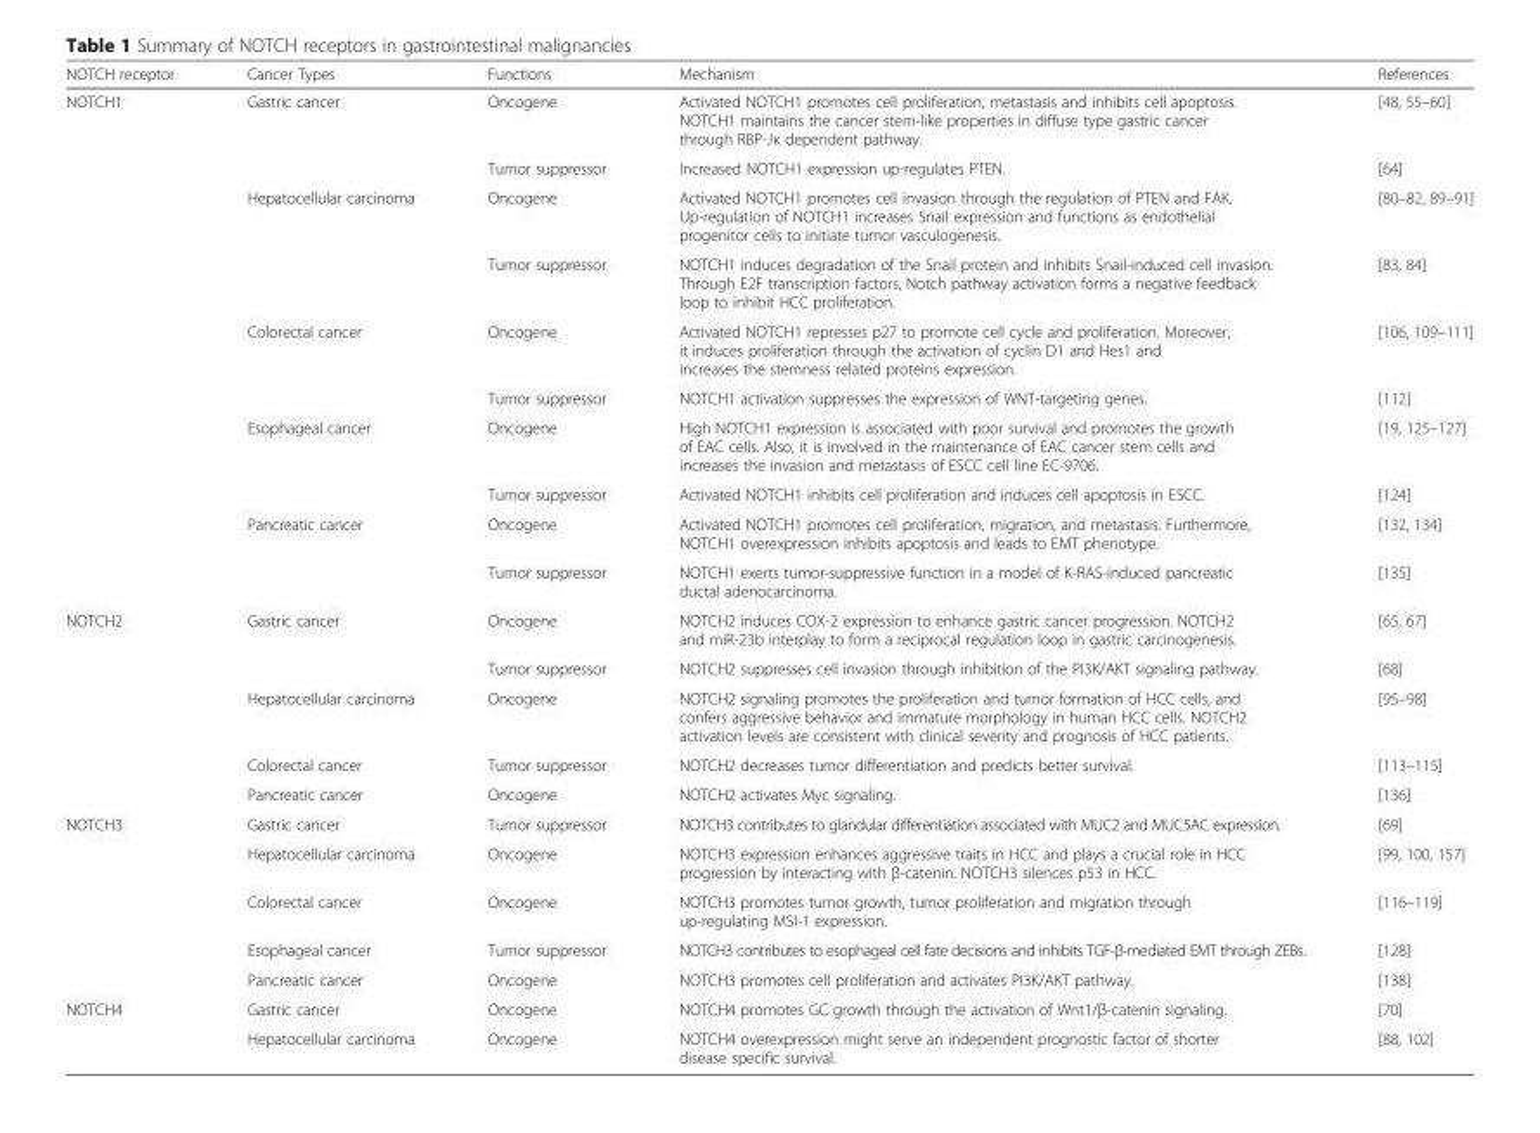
<table><thead><tr><td>NOTCH receptor</td><td>Cancer Types</td><td>Functions</td><td>Mechanism</td><td>References</td></tr></thead><tbody><tr><td rowspan="10">NOTCH1</td><td rowspan="2">Gastric cancer</td><td>Oncogene</td><td>Activated NOTCH1 promotes cell proliferation, metastasis and inhibits cell apoptosis. NOTCH1 maintains the cancer stem-like properties in diffuse type gastric cancer through RBP-Jκ dependent pathway.</td><td>[48, 55–60]</td></tr><tr><td>Tumor suppressor</td><td>Increased NOTCH1 expression up-regulates PTEN.</td><td>[64]</td></tr><tr><td rowspan="2">Hepatocellular carcinoma</td><td>Oncogene</td><td>Activated NOTCH1 promotes cell invasion through the regulation of PTEN and FAK. Up-regulation of NOTCH1 increases Snail expression and functions as endothelial progenitor cells to initiate tumor vasculogenesis.</td><td>[80–82, 89–91]</td></tr><tr><td>Tumor suppressor</td><td>NOTCH1 induces degradation of the Snail protein and inhibits Snail-induced cell invasion. Through E2F transcription factors, Notch pathway activation forms a negative feedback loop to inhibit HCC proliferation.</td><td>[83, 84]</td></tr><tr><td rowspan="2">Colorectal cancer</td><td>Oncogene</td><td>Activated NOTCH1 represses p27 to promote cell cycle and proliferation. Moreover, it induces proliferation through the activation of cyclin D1 and Hes1 and increases the stemness related proteins expression.</td><td>[106, 109–111]</td></tr><tr><td>Tumor suppressor</td><td>NOTCH1 activation suppresses the expression of WNT-targeting genes.</td><td>[112]</td></tr><tr><td rowspan="2">Esophageal cancer</td><td>Oncogene</td><td>High NOTCH1 expression is associated with poor survival and promotes the growth of EAC cells. Also, it is involved in the maintenance of EAC cancer stem cells and increases the invasion and metastasis of ESCC cell line EC-9706.</td><td>[19, 125–127]</td></tr><tr><td>Tumor suppressor</td><td>Activated NOTCH1 inhibits cell proliferation and induces cell apoptosis in ESCC.</td><td>[124]</td></tr><tr><td rowspan="2">Pancreatic cancer</td><td>Oncogene</td><td>Activated NOTCH1 promotes cell proliferation, migration, and metastasis. Furthermore, NOTCH1 overexpression inhibits apoptosis and leads to EMT phenotype.</td><td>[132, 134]</td></tr><tr><td>Tumor suppressor</td><td>NOTCH1 exerts tumor-suppressive function in a model of K-RAS-induced pancreatic ductal adenocarcinoma.</td><td>[135]</td></tr><tr><td rowspan="5">NOTCH2</td><td rowspan="2">Gastric cancer</td><td>Oncogene</td><td>NOTCH2 induces COX-2 expression to enhance gastric cancer progression. NOTCH2 and miR-23b interplay to form a reciprocal regulation loop in gastric carcinogenesis.</td><td>[65, 67]</td></tr><tr><td>Tumor suppressor</td><td>NOTCH2 suppresses cell invasion through inhibition of the PI3K/AKT signaling pathway.</td><td>[68]</td></tr><tr><td>Hepatocellular carcinoma</td><td>Oncogene</td><td>NOTCH2 signaling promotes the proliferation and tumor formation of HCC cells, and confers aggressive behavior and immature morphology in human HCC cells. NOTCH2 activation levels are consistent with clinical severity and prognosis of HCC patients.</td><td>[95–98]</td></tr><tr><td>Colorectal cancer</td><td>Tumor suppressor</td><td>NOTCH2 decreases tumor differentiation and predicts better survival.</td><td>[113–115]</td></tr><tr><td>Pancreatic cancer</td><td>Oncogene</td><td>NOTCH2 activates Myc signaling.</td><td>[136]</td></tr><tr><td rowspan="5">NOTCH3</td><td>Gastric cancer</td><td>Tumor suppressor</td><td>NOTCH3 contributes to glandular differentiation associated with MUC2 and MUC5AC expression.</td><td>[69]</td></tr><tr><td>Hepatocellular carcinoma</td><td>Oncogene</td><td>NOTCH3 expression enhances aggressive traits in HCC and plays a crucial role in HCC progression by interacting with β-catenin. NOTCH3 silences p53 in HCC.</td><td>[99, 100, 157]</td></tr><tr><td>Colorectal cancer</td><td>Oncogene</td><td>NOTCH3 promotes tumor growth, tumor proliferation and migration through up-regulating MSI-1 expression.</td><td>[116–119]</td></tr><tr><td>Esophageal cancer</td><td>Tumor suppressor</td><td>NOTCH3 contributes to esophageal cell fate decisions and inhibits TGF-β-mediated EMT through ZEBs.</td><td>[128]</td></tr><tr><td>Pancreatic cancer</td><td>Oncogene</td><td>NOTCH3 promotes cell proliferation and activates PI3K/AKT pathway.</td><td>[138]</td></tr><tr><td rowspan="2">NOTCH4</td><td>Gastric cancer</td><td>Oncogene</td><td>NOTCH4 promotes GC growth through the activation of Wnt1/β-catenin signaling.</td><td>[70]</td></tr><tr><td>Hepatocellular carcinoma</td><td>Oncogene</td><td>NOTCH4 overexpression might serve an independent prognostic factor of shorter disease specific survival.</td><td>[88, 102]</td></tr></tbody></table>